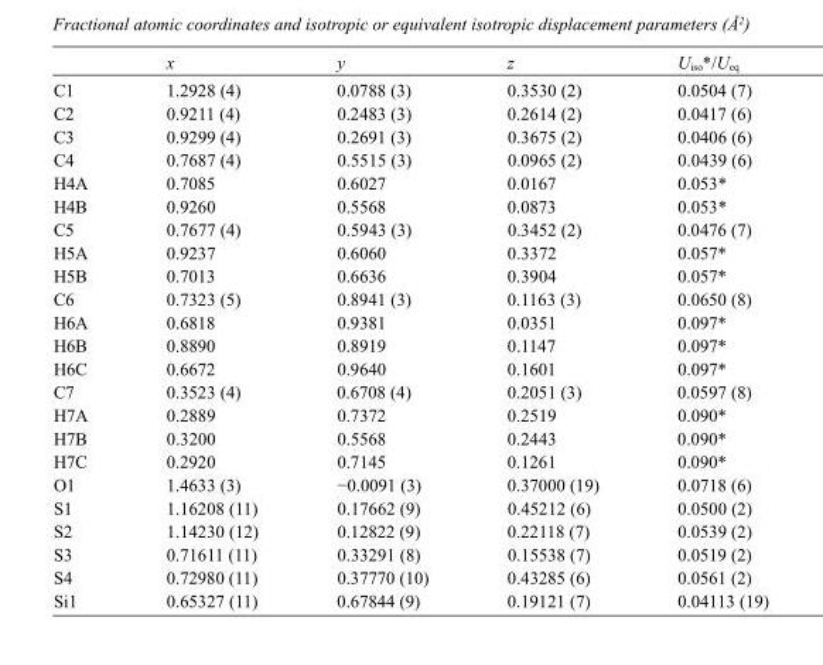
<table><thead><tr><td></td><td>x</td><td>y</td><td>z</td><td>U<sub>iso</sub>*/U<sub>eq</sub></td></tr></thead><tbody><tr><td>C1</td><td>1.2928 (4)</td><td>0.0788 (3)</td><td>0.3530 (2)</td><td>0.0504 (7)</td></tr><tr><td>C2</td><td>0.9211 (4)</td><td>0.2483 (3)</td><td>0.2614 (2)</td><td>0.0417 (6)</td></tr><tr><td>C3</td><td>0.9299 (4)</td><td>0.2691 (3)</td><td>0.3675 (2)</td><td>0.0406 (6)</td></tr><tr><td>C4</td><td>0.7687 (4)</td><td>0.5515 (3)</td><td>0.0965 (2)</td><td>0.0439 (6)</td></tr><tr><td>H4A</td><td>0.7085</td><td>0.6027</td><td>0.0167</td><td>0.053*</td></tr><tr><td>H4B</td><td>0.9260</td><td>0.5568</td><td>0.0873</td><td>0.053*</td></tr><tr><td>C5</td><td>0.7677 (4)</td><td>0.5943 (3)</td><td>0.3452 (2)</td><td>0.0476 (7)</td></tr><tr><td>H5A</td><td>0.9237</td><td>0.6060</td><td>0.3372</td><td>0.057*</td></tr><tr><td>H5B</td><td>0.7013</td><td>0.6636</td><td>0.3904</td><td>0.057*</td></tr><tr><td>C6</td><td>0.7323 (5)</td><td>0.8941 (3)</td><td>0.1163 (3)</td><td>0.0650 (8)</td></tr><tr><td>H6A</td><td>0.6818</td><td>0.9381</td><td>0.0351</td><td>0.097*</td></tr><tr><td>H6B</td><td>0.8890</td><td>0.8919</td><td>0.1147</td><td>0.097*</td></tr><tr><td>H6C</td><td>0.6672</td><td>0.9640</td><td>0.1601</td><td>0.097*</td></tr><tr><td>C7</td><td>0.3523 (4)</td><td>0.6708 (4)</td><td>0.2051 (3)</td><td>0.0597 (8)</td></tr><tr><td>H7A</td><td>0.2889</td><td>0.7372</td><td>0.2519</td><td>0.090*</td></tr><tr><td>H7B</td><td>0.3200</td><td>0.5568</td><td>0.2443</td><td>0.090*</td></tr><tr><td>H7C</td><td>0.2920</td><td>0.7145</td><td>0.1261</td><td>0.090*</td></tr><tr><td>O1</td><td>1.4633 (3)</td><td>−0.0091 (3)</td><td>0.37000 (19)</td><td>0.0718 (6)</td></tr><tr><td>S1</td><td>1.16208 (11)</td><td>0.17662 (9)</td><td>0.45212 (6)</td><td>0.0500 (2)</td></tr><tr><td>S2</td><td>1.14230 (12)</td><td>0.12822 (9)</td><td>0.22118 (7)</td><td>0.0539 (2)</td></tr><tr><td>S3</td><td>0.71611 (11)</td><td>0.33291 (8)</td><td>0.15538 (7)</td><td>0.0519 (2)</td></tr><tr><td>S4</td><td>0.72980 (11)</td><td>0.37770 (10)</td><td>0.43285 (6)</td><td>0.0561 (2)</td></tr><tr><td>Si1</td><td>0.65327 (11)</td><td>0.67844 (9)</td><td>0.19121 (7)</td><td>0.04113 (19)</td></tr></tbody></table>